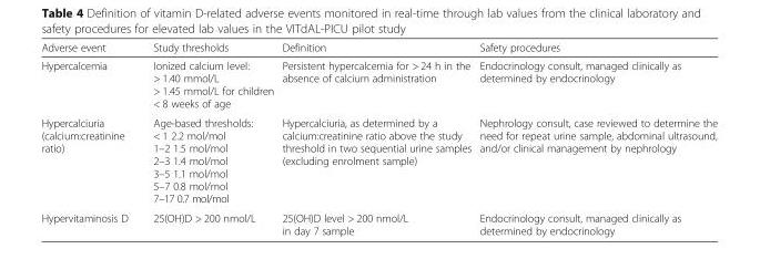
<table><thead><tr><td>Adverse event</td><td>Study thresholds</td><td>Definition</td><td>Safety procedures</td></tr></thead><tbody><tr><td>Hypercalcemia</td><td>Ionized calcium level: &gt; 1.40 mmol/L &gt; 1.45 mmol/L for children &lt; 8 weeks of age</td><td>Persistent hypercalcemia for &gt; 24 h in the absence of calcium administration</td><td>Endocrinology consult, managed clinically as determined by endocrinology</td></tr><tr><td>Hypercalciuria (calcium:creatinine ratio)</td><td>Age-based thresholds: &lt; 1 2.2 mol/mol 1–2 1.5 mol/mol 2–3 1.4 mol/mol 3–5 1.1 mol/mol 5–7 0.8 mol/mol 7–17 0.7 mol/mol</td><td>Hypercalciuria, as determined by a calcium:creatinine ratio above the study threshold in two sequential urine samples (excluding enrolment sample)</td><td>Nephrology consult, case reviewed to determine the need for repeat urine sample, abdominal ultrasound, and/or clinical management by nephrology</td></tr><tr><td>Hypervitaminosis D</td><td>25(OH)D &gt; 200 nmol/L</td><td>25(OH)D level &gt; 200 nmol/L in day 7 sample</td><td>Endocrinology consult, managed clinically as determined by endocrinology</td></tr></tbody></table>